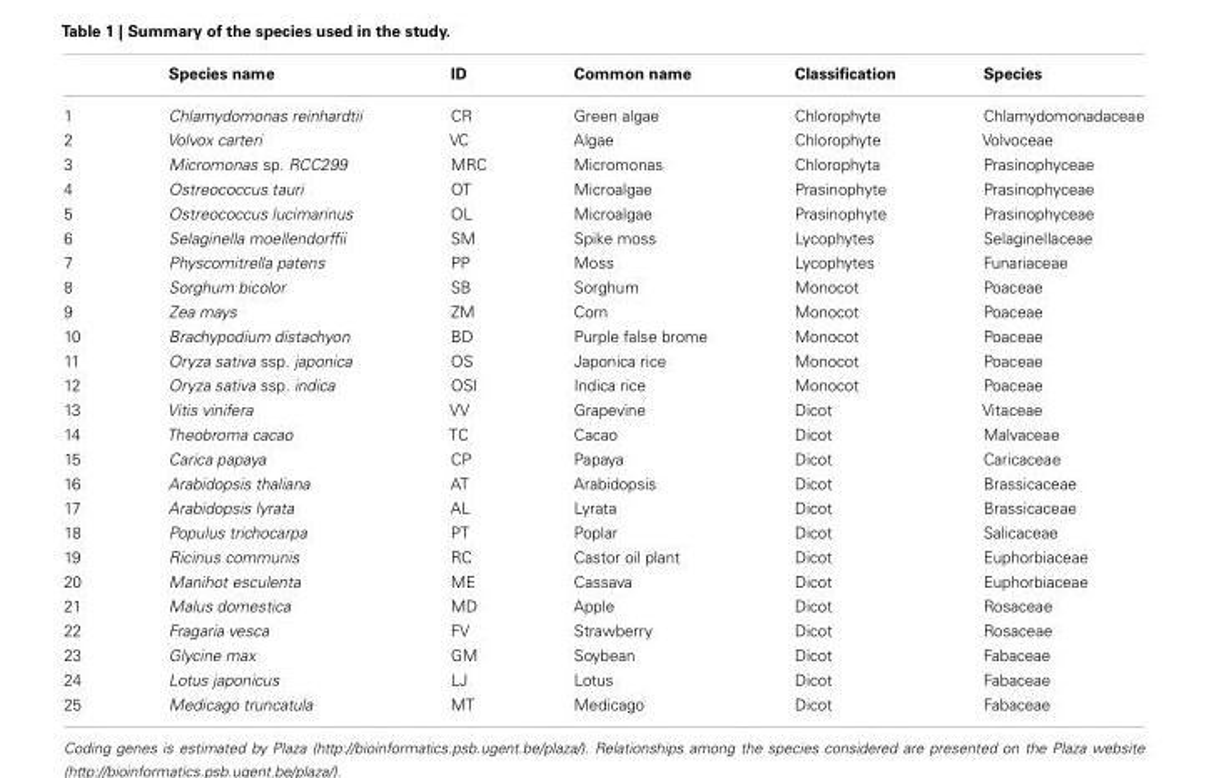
<table><thead><tr><td></td><td>Species name</td><td>ID</td><td>Common name</td><td>Classification</td><td>Species</td></tr></thead><tbody><tr><td>1</td><td>Chlamydomonas reinhardtii</td><td>CR</td><td>Green algae</td><td>Chlorophyte</td><td>Chlamydomonadaceae</td></tr><tr><td>2</td><td>Volvox carteri</td><td>VC</td><td>Algae</td><td>Chlorophyte</td><td>Volvoceae</td></tr><tr><td>3</td><td>Micromonas sp. RCC299</td><td>MRC</td><td>Micromonas</td><td>Chlorophyta</td><td>Prasinophyceae</td></tr><tr><td>4</td><td>Ostreococcus tauri</td><td>OT</td><td>Microalgae</td><td>Prasinophyte</td><td>Prasinophyceae</td></tr><tr><td>5</td><td>Ostreococcus lucimarinus</td><td>OL</td><td>Microalgae</td><td>Prasinophyte</td><td>Prasinophyceae</td></tr><tr><td>6</td><td>Selaginella moellendorffii</td><td>SM</td><td>Spike moss</td><td>Lycophytes</td><td>Selaginellaceae</td></tr><tr><td>7</td><td>Physcomitrella patens</td><td>PP</td><td>Moss</td><td>Lycophytes</td><td>Funariaceae</td></tr><tr><td>8</td><td>Sorghum bicolor</td><td>SB</td><td>Sorghum</td><td>Monocot</td><td>Poaceae</td></tr><tr><td>9</td><td>Zea mays</td><td>ZM</td><td>Corn</td><td>Monocot</td><td>Poaceae</td></tr><tr><td>10</td><td>Brachypodium distachyon</td><td>BD</td><td>Purple false brome</td><td>Monocot</td><td>Poaceae</td></tr><tr><td>11</td><td>Oryza sativa ssp. japonica</td><td>OS</td><td>Japonica rice</td><td>Monocot</td><td>Poaceae</td></tr><tr><td>12</td><td>Oryza sativa ssp. indica</td><td>OSI</td><td>Indica rice</td><td>Monocot</td><td>Poaceae</td></tr><tr><td>13</td><td>Vitis vinifera</td><td>VV</td><td>Grapevine</td><td>Dicot</td><td>Vitaceae</td></tr><tr><td>14</td><td>Theobroma cacao</td><td>TC</td><td>Cacao</td><td>Dicot</td><td>Malvaceae</td></tr><tr><td>15</td><td>Carica papaya</td><td>CP</td><td>Papaya</td><td>Dicot</td><td>Caricaceae</td></tr><tr><td>16</td><td>Arabidopsis thaliana</td><td>AT</td><td>Arabidopsis</td><td>Dicot</td><td>Brassicaceae</td></tr><tr><td>17</td><td>Arabidopsis lyrata</td><td>AL</td><td>Lyrata</td><td>Dicot</td><td>Brassicaceae</td></tr><tr><td>18</td><td>Populus trichocarpa</td><td>PT</td><td>Poplar</td><td>Dicot</td><td>Salicaceae</td></tr><tr><td>19</td><td>Ricinus communis</td><td>RC</td><td>Castor oil plant</td><td>Dicot</td><td>Euphorbiaceae</td></tr><tr><td>20</td><td>Manihot esculenta</td><td>ME</td><td>Cassava</td><td>Dicot</td><td>Euphorbiaceae</td></tr><tr><td>21</td><td>Malus domestica</td><td>MD</td><td>Apple</td><td>Dicot</td><td>Rosaceae</td></tr><tr><td>22</td><td>Fragaria vesca</td><td>FV</td><td>Strawberry</td><td>Dicot</td><td>Rosaceae</td></tr><tr><td>23</td><td>Glycine max</td><td>GM</td><td>Soybean</td><td>Dicot</td><td>Fabaceae</td></tr><tr><td>24</td><td>Lotus japonicus</td><td>LJ</td><td>Lotus</td><td>Dicot</td><td>Fabaceae</td></tr><tr><td>25</td><td>Medicago truncatula</td><td>MT</td><td>Medicago</td><td>Dicot</td><td>Fabaceae</td></tr></tbody></table>